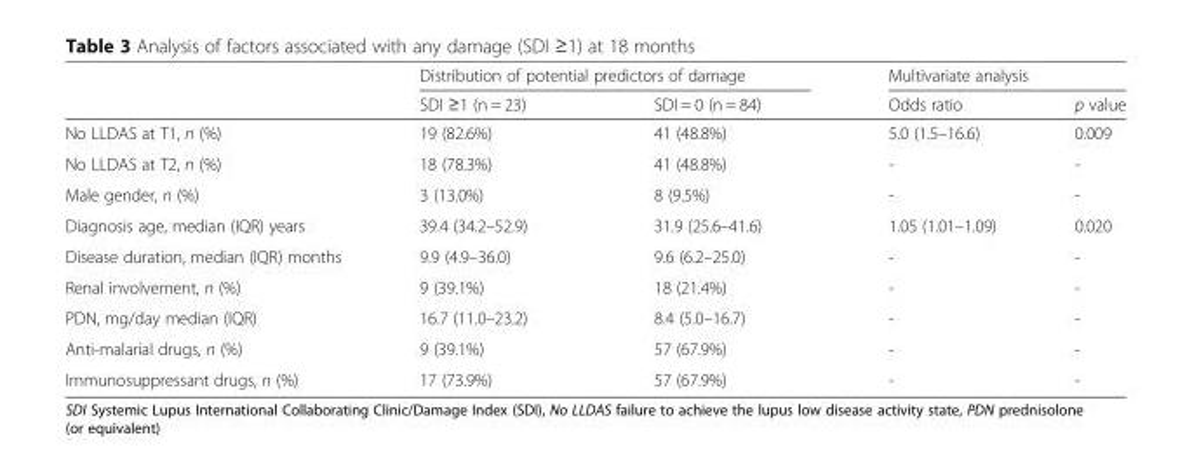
<table><thead><tr><td rowspan="2"></td><td colspan="2">Distribution of potential predictors of damage</td><td colspan="2">Multivariate analysis</td></tr><tr><td>SDI ≥1 (n = 23)</td><td>SDI = 0 (n = 84)</td><td>Odds ratio</td><td>p value</td></tr></thead><tbody><tr><td>No LLDAS at T1, n (%)</td><td>19 (82.6%)</td><td>41 (48.8%)</td><td>5.0 (1.5–16.6)</td><td>0.009</td></tr><tr><td>No LLDAS at T2, n (%)</td><td>18 (78.3%)</td><td>41 (48.8%)</td><td>-</td><td>-</td></tr><tr><td>Male gender, n (%)</td><td>3 (13.0%)</td><td>8 (9.5%)</td><td>-</td><td>-</td></tr><tr><td>Diagnosis age, median (IQR) years</td><td>39.4 (34.2–52.9)</td><td>31.9 (25.6–41.6)</td><td>1.05 (1.01–1.09)</td><td>0.020</td></tr><tr><td>Disease duration, median (IQR) months</td><td>9.9 (4.9–36.0)</td><td>9.6 (6.2–25.0)</td><td>-</td><td>-</td></tr><tr><td>Renal involvement, n (%)</td><td>9 (39.1%)</td><td>18 (21.4%)</td><td>-</td><td>-</td></tr><tr><td>PDN, mg/day median (IQR)</td><td>16.7 (11.0–23.2)</td><td>8.4 (5.0–16.7)</td><td>-</td><td>-</td></tr><tr><td>Anti-malarial drugs, n (%)</td><td>9 (39.1%)</td><td>57 (67.9%)</td><td>-</td><td>-</td></tr><tr><td>Immunosuppressant drugs, n (%)</td><td>17 (73.9%)</td><td>57 (67.9%)</td><td>-</td><td>-</td></tr></tbody></table>